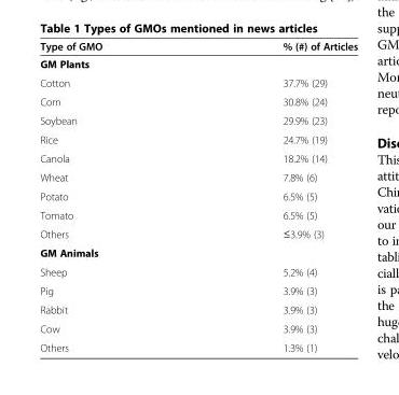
<table><thead><tr><td>Type of GMO</td><td>% (#) of Articles</td></tr></thead><tbody><tr><td colspan="2">GM Plants</td></tr><tr><td>Cotton</td><td>37.7% (29)</td></tr><tr><td>Corn</td><td>30.8% (24)</td></tr><tr><td>Soybean</td><td>29.9% (23)</td></tr><tr><td>Rice</td><td>24.7% (19)</td></tr><tr><td>Canola</td><td>18.2% (14)</td></tr><tr><td>Wheat</td><td>7.8% (6)</td></tr><tr><td>Potato</td><td>6.5% (5)</td></tr><tr><td>Tomato</td><td>6.5% (5)</td></tr><tr><td>Others</td><td>≤3.9% (3)</td></tr><tr><td colspan="2">GM Animals</td></tr><tr><td>Sheep</td><td>5.2% (4)</td></tr><tr><td>Pig</td><td>3.9% (3)</td></tr><tr><td>Rabbit</td><td>3.9% (3)</td></tr><tr><td>Cow</td><td>3.9% (3)</td></tr><tr><td>Others</td><td>1.3% (1)</td></tr></tbody></table>